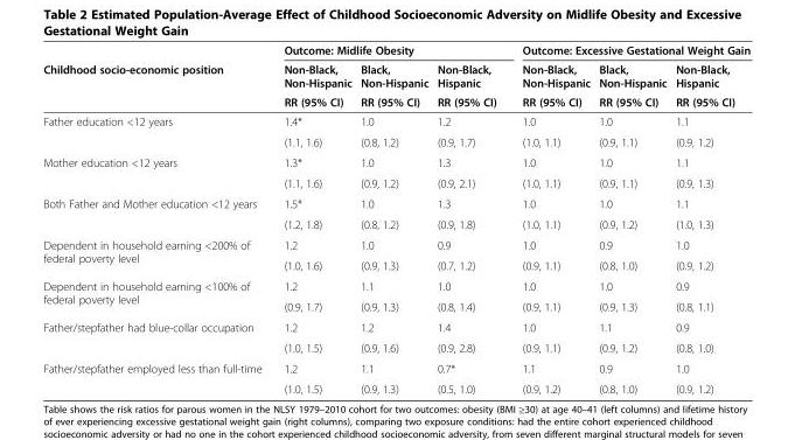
<table><thead><tr><td rowspan="3">Childhood socio-economic position</td><td colspan="3">Outcome: Midlife Obesity</td><td colspan="3">Outcome: Excessive Gestational Weight Gain</td></tr><tr><td rowspan="2">Non-Black, Non-Hispanic RR (95% CI)</td><td rowspan="2">Black, Non-Hispanic RR (95% CI)</td><td rowspan="2">Non-Black, Hispanic RR (95% CI)</td><td rowspan="2">Non-Black, Non-Hispanic RR (95% CI)</td><td rowspan="2">Black, Non-Hispanic RR (95% CI)</td><td rowspan="2">Non-Black, Hispanic RR (95% CI)</td></tr><tr></tr></thead><tbody><tr><td rowspan="2">Father education &lt;12 years</td><td>1.4*</td><td>1.0</td><td>1.2</td><td>1.0</td><td>1.0</td><td>1.1</td></tr><tr><td>(1.1, 1.6)</td><td>(0.8, 1.2)</td><td>(0.9, 1.7)</td><td>(1.0, 1.1)</td><td>(0.9, 1.1)</td><td>(0.9, 1.2)</td></tr><tr><td rowspan="2">Mother education &lt;12 years</td><td>1.3*</td><td>1.0</td><td>1.3</td><td>1.0</td><td>1.0</td><td>1.1</td></tr><tr><td>(1.1, 1.6)</td><td>(0.9, 1.2)</td><td>(0.9, 2.1)</td><td>(1.0, 1.1)</td><td>(0.9, 1.1)</td><td>(0.9, 1.3)</td></tr><tr><td rowspan="2">Both Father and Mother education &lt;12 years</td><td>1.5*</td><td>1.0</td><td>1.3</td><td>1.0</td><td>1.0</td><td>1.1</td></tr><tr><td>(1.2, 1.8)</td><td>(0.8, 1.2)</td><td>(0.9, 1.8)</td><td>(1.0, 1.1)</td><td>(0.9, 1.2)</td><td>(1.0, 1.3)</td></tr><tr><td rowspan="2">Dependent in household earning &lt;200% of federal poverty level</td><td>1.2</td><td>1.0</td><td>0.9</td><td>1.0</td><td>0.9</td><td>1.0</td></tr><tr><td>(1.0, 1.6)</td><td>(0.9, 1.3)</td><td>(0.7, 1.2)</td><td>(0.9, 1.1)</td><td>(0.8, 1.0)</td><td>(0.9, 1.2)</td></tr><tr><td rowspan="2">Dependent in household earning &lt;100% of federal poverty level</td><td>1.2</td><td>1.1</td><td>1.0</td><td>1.0</td><td>1.0</td><td>0.9</td></tr><tr><td>(0.9, 1.7)</td><td>(0.9, 1.3)</td><td>(0.8, 1.4)</td><td>(0.9, 1.1)</td><td>(0.9, 1.3)</td><td>(0.8, 1.1)</td></tr><tr><td rowspan="2">Father/stepfather had blue-collar occupation</td><td>1.2</td><td>1.2</td><td>1.4</td><td>1.0</td><td>1.1</td><td>0.9</td></tr><tr><td>(1.0, 1.5)</td><td>(0.9, 1.6)</td><td>(0.9, 2.8)</td><td>(0.9, 1.1)</td><td>(0.9, 1.2)</td><td>(0.8, 1.0)</td></tr><tr><td rowspan="2">Father/stepfather employed less than full-time</td><td>1.2</td><td>1.1</td><td>0.7*</td><td>1.1</td><td>0.9</td><td>1.0</td></tr><tr><td>(1.0, 1.5)</td><td>(0.9, 1.3)</td><td>(0.5, 1.0)</td><td>(0.9, 1.2)</td><td>(0.8, 1.0)</td><td>(0.9, 1.2)</td></tr></tbody></table>